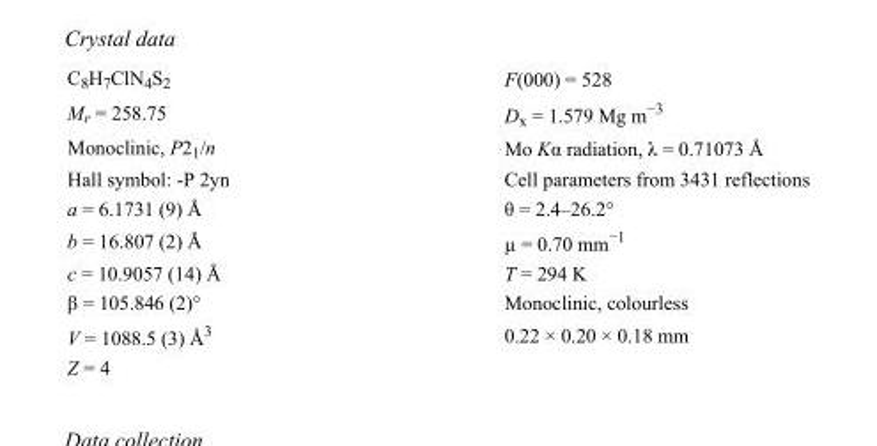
<table><tbody><tr><td>C<sub>8</sub>H<sub>7</sub>ClN<sub>4</sub>S<sub>2</sub></td><td>F(000) = 528</td></tr><tr><td>M<sub>r</sub> = 258.75</td><td>D<sub>x</sub> = 1.579 Mg m<sup>−3</sup></td></tr><tr><td>Monoclinic, P2<sub>1</sub>/n</td><td>Mo Kα radiation, λ = 0.71073 Å</td></tr><tr><td>Hall symbol: -P 2yn</td><td>Cell parameters from 3431 reflections</td></tr><tr><td>a = 6.1731 (9) Å</td><td>θ = 2.4–26.2°</td></tr><tr><td>b = 16.807 (2) Å</td><td>µ = 0.70 mm<sup>−1</sup></td></tr><tr><td>c = 10.9057 (14) Å</td><td>T = 294 K</td></tr><tr><td>β = 105.846 (2)°</td><td>Monoclinic, colourless</td></tr><tr><td>V = 1088.5 (3) Å<sup>3</sup></td><td>0.22 × 0.20 × 0.18 mm</td></tr><tr><td>Z = 4</td><td></td></tr></tbody></table>